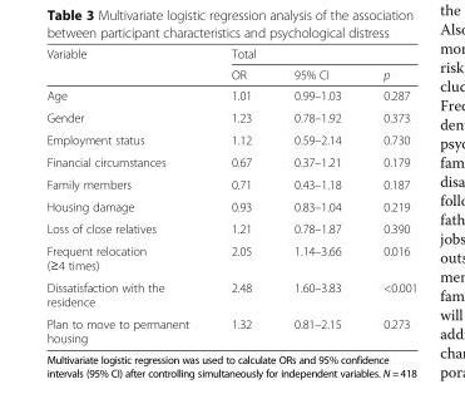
<table><thead><tr><td rowspan="2">Variable</td><td colspan="3">Total</td></tr><tr><td>OR</td><td>95% CI</td><td>p</td></tr></thead><tbody><tr><td>Age</td><td>1.01</td><td>0.99–1.03</td><td>0.287</td></tr><tr><td>Gender</td><td>1.23</td><td>0.78–1.92</td><td>0.373</td></tr><tr><td>Employment status</td><td>1.12</td><td>0.59–2.14</td><td>0.730</td></tr><tr><td>Financial circumstances</td><td>0.67</td><td>0.37–1.21</td><td>0.179</td></tr><tr><td>Family members</td><td>0.71</td><td>0.43–1.18</td><td>0.187</td></tr><tr><td>Housing damage</td><td>0.93</td><td>0.83–1.04</td><td>0.219</td></tr><tr><td>Loss of close relatives</td><td>1.21</td><td>0.78–1.87</td><td>0.390</td></tr><tr><td>Frequent relocation (≥4 times)</td><td>2.05</td><td>1.14–3.66</td><td>0.016</td></tr><tr><td>Dissatisfaction with the residence</td><td>2.48</td><td>1.60–3.83</td><td>&lt;0.001</td></tr><tr><td>Plan to move to permanent housing</td><td>1.32</td><td>0.81–2.15</td><td>0.273</td></tr></tbody></table>